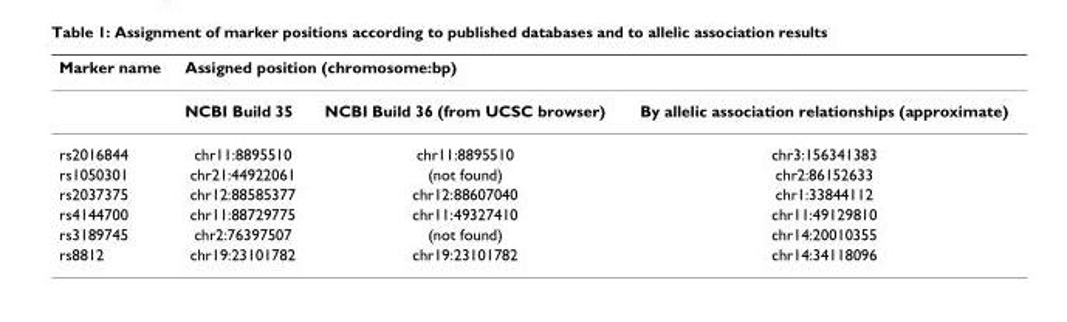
<table><thead><tr><td rowspan="2">Marker name</td><td colspan="3">Assigned position (chromosome:bp)</td></tr><tr><td>NCBI Build 35</td><td>NCBI Build 36 (from UCSC browser)</td><td>By allelic association relationships (approximate)</td></tr></thead><tbody><tr><td>rs2016844</td><td>chr11:8895510</td><td>chr11:8895510</td><td>chr3:156341383</td></tr><tr><td>rs1050301</td><td>chr21:44922061</td><td>(not found)</td><td>chr2:86152633</td></tr><tr><td>rs2037375</td><td>chr12:88585377</td><td>chr12:88607040</td><td>chr1:33844112</td></tr><tr><td>rs4144700</td><td>chr11:88729775</td><td>chr11:49327410</td><td>chr11:49129810</td></tr><tr><td>rs3189745</td><td>chr2:76397507</td><td>(not found)</td><td>chr14:20010355</td></tr><tr><td>rs8812</td><td>chr19:23101782</td><td>chr19:23101782</td><td>chr14:34118096</td></tr></tbody></table>